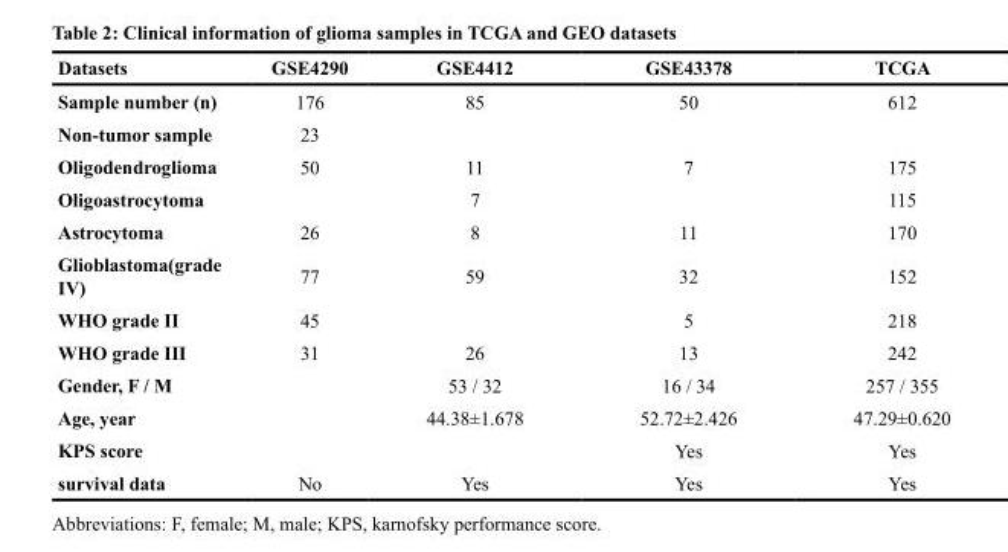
<table><thead><tr><td>Datasets</td><td>GSE4290</td><td>GSE4412</td><td>GSE43378</td><td>TCGA</td></tr></thead><tbody><tr><td>Sample number (n)</td><td>176</td><td>85</td><td>50</td><td>612</td></tr><tr><td>Non-tumor sample</td><td>23</td><td></td><td></td><td></td></tr><tr><td>Oligodendroglioma</td><td>50</td><td>11</td><td>7</td><td>175</td></tr><tr><td>Oligoastrocytoma</td><td></td><td>7</td><td></td><td>115</td></tr><tr><td>Astrocytoma</td><td>26</td><td>8</td><td>11</td><td>170</td></tr><tr><td>Glioblastoma(grade IV)</td><td>77</td><td>59</td><td>32</td><td>152</td></tr><tr><td>WHO grade II</td><td>45</td><td></td><td>5</td><td>218</td></tr><tr><td>WHO grade III</td><td>31</td><td>26</td><td>13</td><td>242</td></tr><tr><td>Gender, F / M</td><td></td><td>53 / 32</td><td>16 / 34</td><td>257 / 355</td></tr><tr><td>Age, year</td><td></td><td>44.38±1.678</td><td>52.72±2.426</td><td>47.29±0.620</td></tr><tr><td>KPS score</td><td></td><td></td><td>Yes</td><td>Yes</td></tr><tr><td>survival data</td><td>No</td><td>Yes</td><td>Yes</td><td>Yes</td></tr></tbody></table>